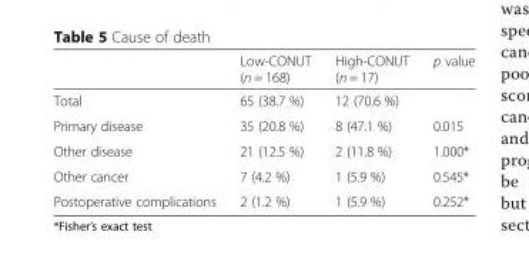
<table><thead><tr><td></td><td>Low-CONUT (n = 168)</td><td>High-CONUT (n = 17)</td><td>p value</td></tr></thead><tbody><tr><td>Total</td><td>65 (38.7 %)</td><td>12 (70.6 %)</td><td></td></tr><tr><td>Primary disease</td><td>35 (20.8 %)</td><td>8 (47.1 %)</td><td>0.015</td></tr><tr><td>Other disease</td><td>21 (12.5 %)</td><td>2 (11.8 %)</td><td>1.000*</td></tr><tr><td>Other cancer</td><td>7 (4.2 %)</td><td>1 (5.9 %)</td><td>0.545*</td></tr><tr><td>Postoperative complications</td><td>2 (1.2 %)</td><td>1 (5.9 %)</td><td>0.252*</td></tr></tbody></table>